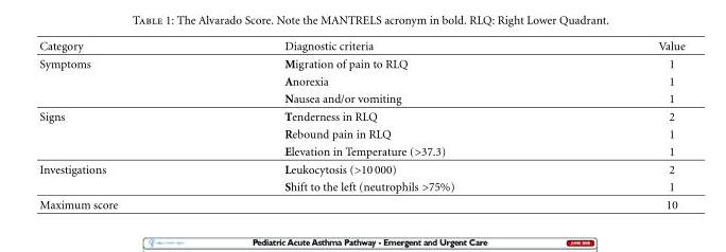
<table><thead><tr><td>Category</td><td>Diagnostic criteria</td><td>Value</td></tr></thead><tbody><tr><td rowspan="3">Symptoms</td><td>Migration of pain to RLQ</td><td>1</td></tr><tr><td>Anorexia</td><td>1</td></tr><tr><td>Nausea and/or vomiting</td><td>1</td></tr><tr><td rowspan="3">Signs</td><td>Tenderness in RLQ</td><td>2</td></tr><tr><td>Rebound pain in RLQ</td><td>1</td></tr><tr><td>Elevation in Temperature (&gt;37.3)</td><td>1</td></tr><tr><td rowspan="2">Investigations</td><td>Leukocytosis (&gt;10 000)</td><td>2</td></tr><tr><td>Shift to the left (neutrophils &gt;75%)</td><td>1</td></tr><tr><td>Maximum score</td><td></td><td>10</td></tr></tbody></table>